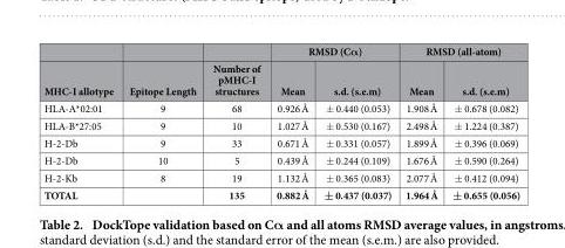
<table><thead><tr><td rowspan="2">MHC-I allotype</td><td rowspan="2">Epitope Length</td><td rowspan="2">Number of pMHC-I structures</td><td colspan="2">RMSD (Cα)</td><td colspan="2">RMSD (all-atom)</td></tr><tr><td>Mean</td><td>s.d. (s.e.m)</td><td>Mean</td><td>s.d. (s.e.m)</td></tr></thead><tbody><tr><td>HLA-A*02:01</td><td>9</td><td>68</td><td>0.926 Å</td><td>± 0.440 (0.053)</td><td>1.908 Å</td><td>± 0.678 (0.082)</td></tr><tr><td>HLA-B*27:05</td><td>9</td><td>10</td><td>1.027 Å</td><td>± 0.530 (0.167)</td><td>2.498 Å</td><td>± 1.224 (0.387)</td></tr><tr><td>H-2-Db</td><td>9</td><td>33</td><td>0.671 Å</td><td>± 0.331 (0.057)</td><td>1.899 Å</td><td>± 0.396 (0.069)</td></tr><tr><td>H-2-Db</td><td>10</td><td>5</td><td>0.439 Å</td><td>± 0.244 (0.109)</td><td>1.676 Å</td><td>± 0.590 (0.264)</td></tr><tr><td>H-2-Kb</td><td>8</td><td>19</td><td>1.132 Å</td><td>± 0.365 (0.083)</td><td>2.077 Å</td><td>± 0.412 (0.094)</td></tr><tr><td>TOTAL</td><td></td><td>135</td><td>0.882 Å</td><td>± 0.437 (0.037)</td><td>1.964 Å</td><td>± 0.655 (0.056)</td></tr></tbody></table>